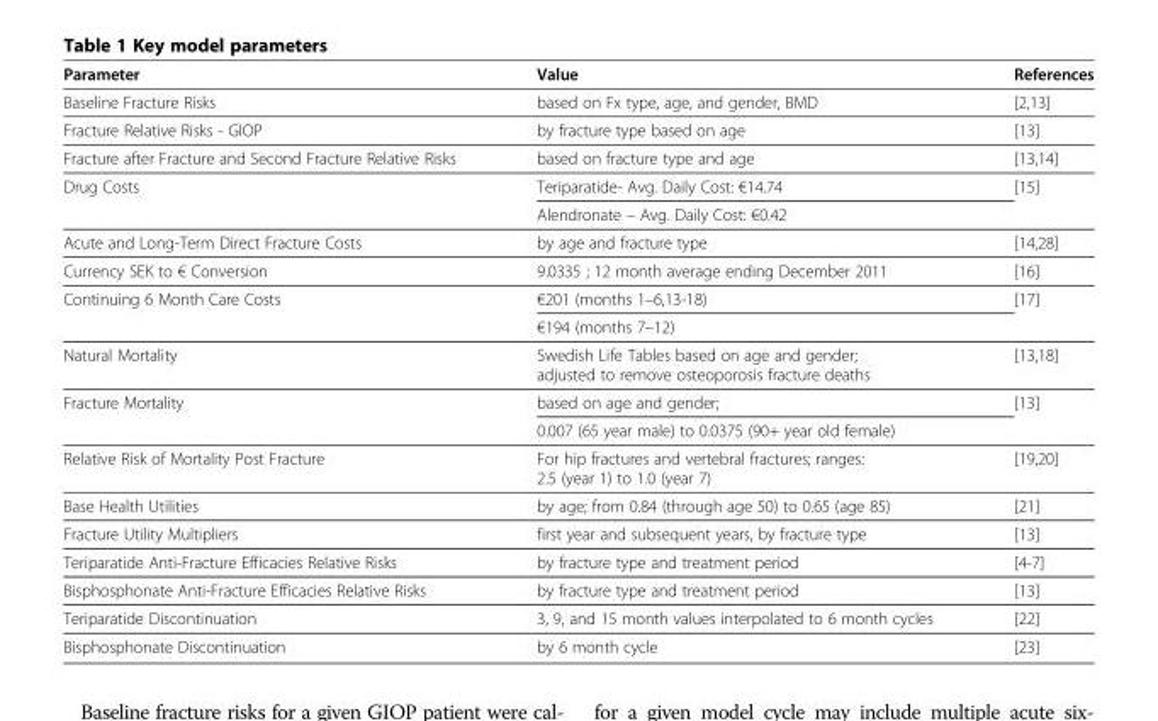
<table><thead><tr><td>Parameter</td><td>Value</td><td>References</td></tr></thead><tbody><tr><td>Baseline Fracture Risks</td><td>based on Fx type, age, and gender, BMD</td><td>[2,13]</td></tr><tr><td>Fracture Relative Risks - GIOP</td><td>by fracture type based on age</td><td>[13]</td></tr><tr><td>Fracture after Fracture and Second Fracture Relative Risks</td><td>based on fracture type and age</td><td>[13,14]</td></tr><tr><td rowspan="2">Drug Costs</td><td>Teriparatide- Avg. Daily Cost: €14.74</td><td>[15]</td></tr><tr><td>Alendronate – Avg. Daily Cost: €0.42</td><td></td></tr><tr><td>Acute and Long-Term Direct Fracture Costs</td><td>by age and fracture type</td><td>[14,28]</td></tr><tr><td>Currency SEK to € Conversion</td><td>9.0335 ; 12 month average ending December 2011</td><td>[16]</td></tr><tr><td rowspan="2">Continuing 6 Month Care Costs</td><td>€201 (months 1–6,13-18)</td><td>[17]</td></tr><tr><td>€194 (months 7–12)</td><td></td></tr><tr><td>Natural Mortality</td><td>Swedish Life Tables based on age and gender; adjusted to remove osteoporosis fracture deaths</td><td>[13,18]</td></tr><tr><td rowspan="2">Fracture Mortality</td><td>based on age and gender;</td><td>[13]</td></tr><tr><td>0.007 (65 year male) to 0.0375 (90+ year old female)</td><td></td></tr><tr><td>Relative Risk of Mortality Post Fracture</td><td>For hip fractures and vertebral fractures; ranges: 2.5 (year 1) to 1.0 (year 7)</td><td>[19,20]</td></tr><tr><td>Base Health Utilities</td><td>by age; from 0.84 (through age 50) to 0.65 (age 85)</td><td>[21]</td></tr><tr><td>Fracture Utility Multipliers</td><td>first year and subsequent years, by fracture type</td><td>[13]</td></tr><tr><td>Teriparatide Anti-Fracture Efficacies Relative Risks</td><td>by fracture type and treatment period</td><td>[4-7]</td></tr><tr><td>Bisphosphonate Anti-Fracture Efficacies Relative Risks</td><td>by fracture type and treatment period</td><td>[13]</td></tr><tr><td>Teriparatide Discontinuation</td><td>3, 9, and 15 month values interpolated to 6 month cycles</td><td>[22]</td></tr><tr><td>Bisphosphonate Discontinuation</td><td>by 6 month cycle</td><td>[23]</td></tr></tbody></table>